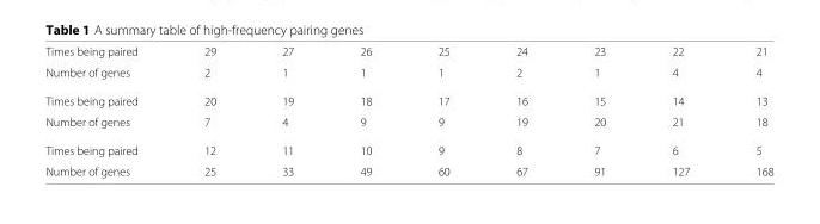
<table><tbody><tr><td>Times being paired</td><td>29</td><td>27</td><td>26</td><td>25</td><td>24</td><td>23</td><td>22</td><td>21</td></tr><tr><td>Number of genes</td><td>2</td><td>1</td><td>1</td><td>1</td><td>2</td><td>1</td><td>4</td><td>4</td></tr><tr><td>Times being paired</td><td>20</td><td>19</td><td>18</td><td>17</td><td>16</td><td>15</td><td>14</td><td>13</td></tr><tr><td>Number of genes</td><td>7</td><td>4</td><td>9</td><td>9</td><td>19</td><td>20</td><td>21</td><td>18</td></tr><tr><td>Times being paired</td><td>12</td><td>11</td><td>10</td><td>9</td><td>8</td><td>7</td><td>6</td><td>5</td></tr><tr><td>Number of genes</td><td>25</td><td>33</td><td>49</td><td>60</td><td>67</td><td>91</td><td>127</td><td>168</td></tr></tbody></table>